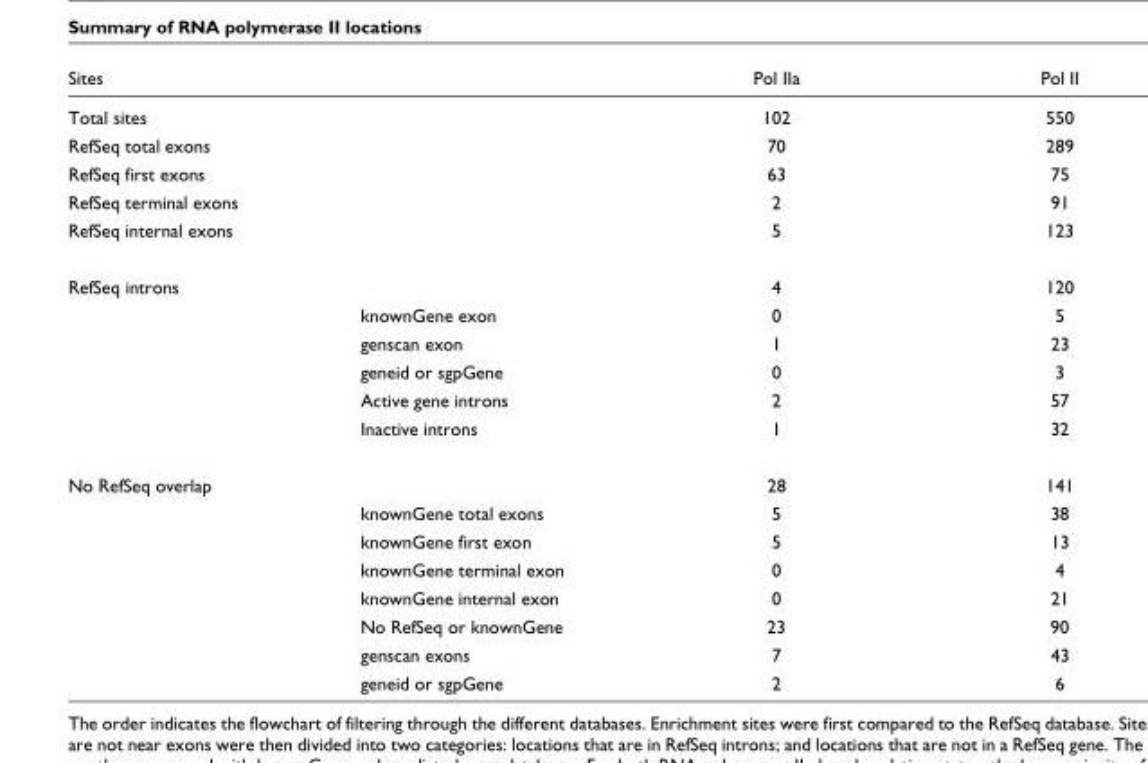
<table><thead><tr><td>Sites</td><td></td><td>Pol IIa</td><td>Pol II</td></tr></thead><tbody><tr><td>Total sites</td><td></td><td>102</td><td>550</td></tr><tr><td>RefSeq total exons</td><td></td><td>70</td><td>289</td></tr><tr><td>RefSeq first exons</td><td></td><td>63</td><td>75</td></tr><tr><td>RefSeq terminal exons</td><td></td><td>2</td><td>91</td></tr><tr><td>RefSeq internal exons</td><td></td><td>5</td><td>123</td></tr><tr><td rowspan="6">RefSeq introns</td><td></td><td>4</td><td>120</td></tr><tr><td>knownGene exon</td><td>0</td><td>5</td></tr><tr><td>genscan exon</td><td>1</td><td>23</td></tr><tr><td>geneid or sgpGene</td><td>0</td><td>3</td></tr><tr><td>Active gene introns</td><td>2</td><td>57</td></tr><tr><td>Inactive introns</td><td>1</td><td>32</td></tr><tr><td rowspan="8">No RefSeq overlap</td><td></td><td>28</td><td>141</td></tr><tr><td>knownGene total exons</td><td>5</td><td>38</td></tr><tr><td>knownGene first exon</td><td>5</td><td>13</td></tr><tr><td>knownGene terminal exon</td><td>0</td><td>4</td></tr><tr><td>knownGene internal exon</td><td>0</td><td>21</td></tr><tr><td>No RefSeq or knownGene</td><td>23</td><td>90</td></tr><tr><td>genscan exons</td><td>7</td><td>43</td></tr><tr><td>geneid or sgpGene</td><td>2</td><td>6</td></tr></tbody></table>